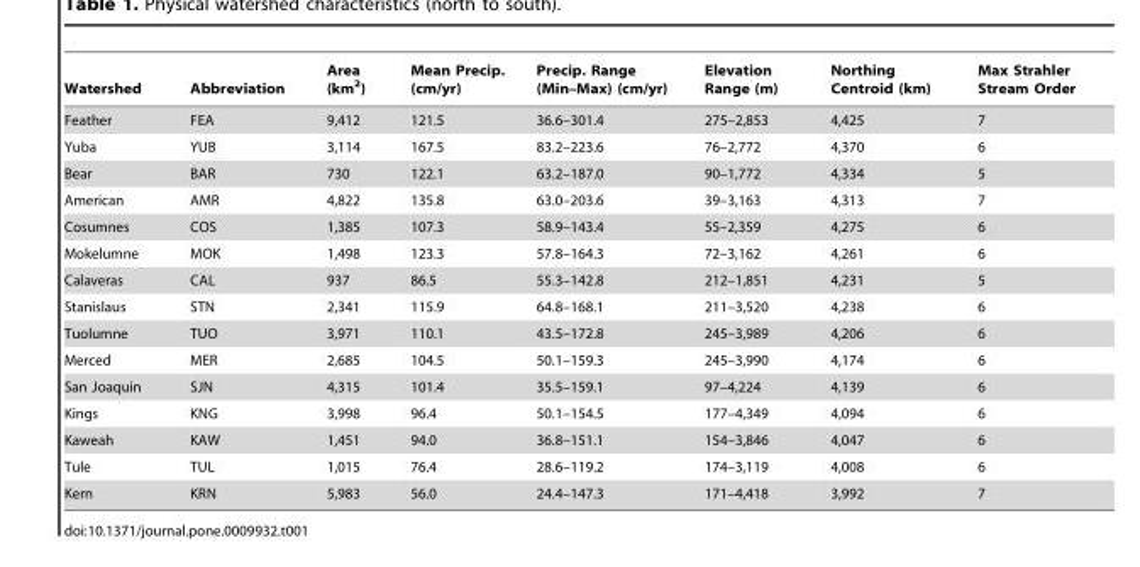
<table><thead><tr><td>Watershed</td><td>Abbreviation</td><td>Area (km<sup>2</sup>)</td><td>Mean Precip. (cm/yr)</td><td>Precip. Range (Min–Max) (cm/yr)</td><td>Elevation Range (m)</td><td>Northing Centroid (km)</td><td>Max Strahler Stream Order</td></tr></thead><tbody><tr><td>Feather</td><td>FEA</td><td>9,412</td><td>121.5</td><td>36.6–301.4</td><td>275–2,853</td><td>4,425</td><td>7</td></tr><tr><td>Yuba</td><td>YUB</td><td>3,114</td><td>167.5</td><td>83.2–223.6</td><td>76–2,772</td><td>4,370</td><td>6</td></tr><tr><td>Bear</td><td>BAR</td><td>730</td><td>122.1</td><td>63.2–187.0</td><td>90–1,772</td><td>4,334</td><td>5</td></tr><tr><td>American</td><td>AMR</td><td>4,822</td><td>135.8</td><td>63.0–203.6</td><td>39–3,163</td><td>4,313</td><td>7</td></tr><tr><td>Cosumnes</td><td>COS</td><td>1,385</td><td>107.3</td><td>58.9–143.4</td><td>55–2,359</td><td>4,275</td><td>6</td></tr><tr><td>Mokelumne</td><td>MOK</td><td>1,498</td><td>123.3</td><td>57.8–164.3</td><td>72–3,162</td><td>4,261</td><td>6</td></tr><tr><td>Calaveras</td><td>CAL</td><td>937</td><td>86.5</td><td>55.3–142.8</td><td>212–1,851</td><td>4,231</td><td>5</td></tr><tr><td>Stanislaus</td><td>STN</td><td>2,341</td><td>115.9</td><td>64.8–168.1</td><td>211–3,520</td><td>4,238</td><td>6</td></tr><tr><td>Tuolumne</td><td>TUO</td><td>3,971</td><td>110.1</td><td>43.5–172.8</td><td>245–3,989</td><td>4,206</td><td>6</td></tr><tr><td>Merced</td><td>MER</td><td>2,685</td><td>104.5</td><td>50.1–159.3</td><td>245–3,990</td><td>4,174</td><td>6</td></tr><tr><td>San Joaquin</td><td>SJN</td><td>4,315</td><td>101.4</td><td>35.5–159.1</td><td>97–4,224</td><td>4,139</td><td>6</td></tr><tr><td>Kings</td><td>KNG</td><td>3,998</td><td>96.4</td><td>50.1–154.5</td><td>177–4,349</td><td>4,094</td><td>6</td></tr><tr><td>Kaweah</td><td>KAW</td><td>1,451</td><td>94.0</td><td>36.8–151.1</td><td>154–3,846</td><td>4,047</td><td>6</td></tr><tr><td>Tule</td><td>TUL</td><td>1,015</td><td>76.4</td><td>28.6–119.2</td><td>174–3,119</td><td>4,008</td><td>6</td></tr><tr><td>Kern</td><td>KRN</td><td>5,983</td><td>56.0</td><td>24.4–147.3</td><td>171–4,418</td><td>3,992</td><td>7</td></tr></tbody></table>